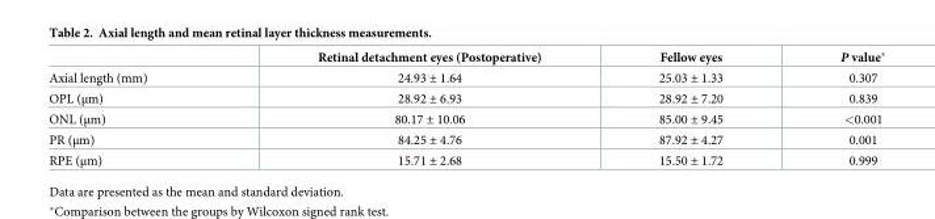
<table><thead><tr><td></td><td>Retinal detachment eyes (Postoperative)</td><td>Fellow eyes</td><td>P value*</td></tr></thead><tbody><tr><td>Axial length (mm)</td><td>24.93 ± 1.64</td><td>25.03 ± 1.33</td><td>0.307</td></tr><tr><td>OPL (μm)</td><td>28.92 ± 6.93</td><td>28.92 ± 7.20</td><td>0.839</td></tr><tr><td>ONL (μm)</td><td>80.17 ± 10.06</td><td>85.00 ± 9.45</td><td>&lt;0.001</td></tr><tr><td>PR (μm)</td><td>84.25 ± 4.76</td><td>87.92 ± 4.27</td><td>0.001</td></tr><tr><td>RPE (μm)</td><td>15.71 ± 2.68</td><td>15.50 ± 1.72</td><td>0.999</td></tr></tbody></table>